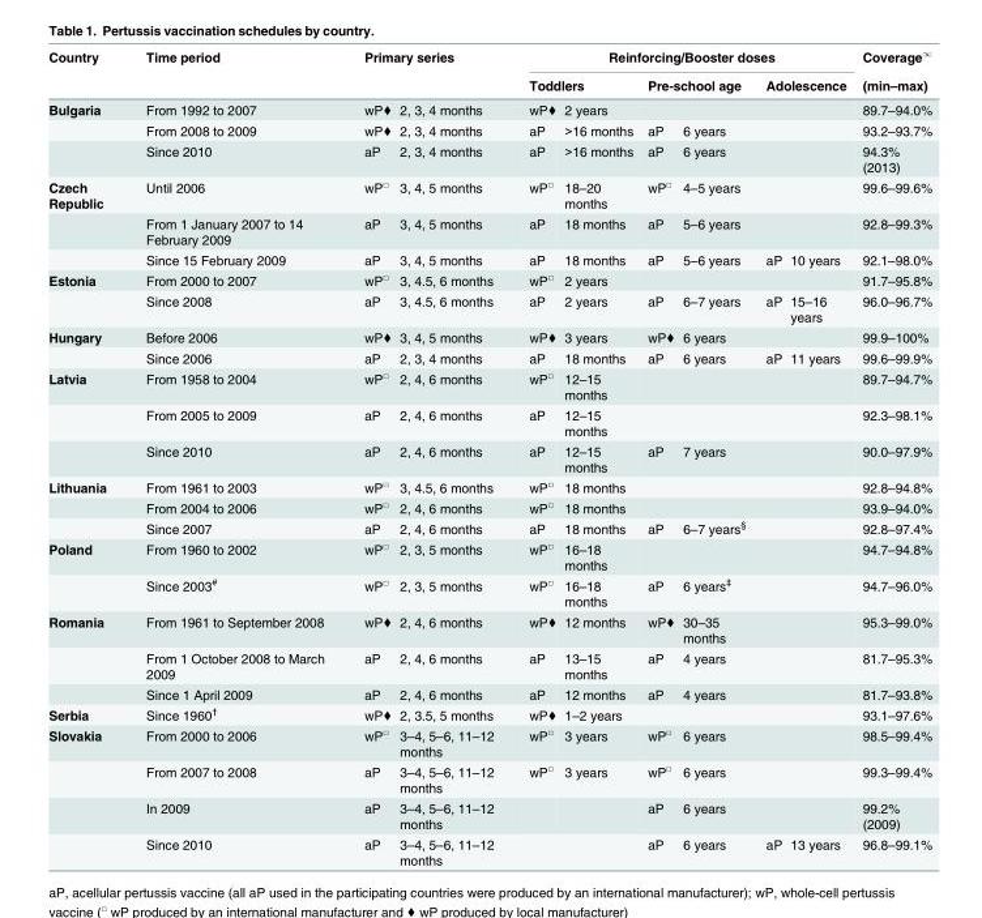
<table><thead><tr><td rowspan="3">Country Bulgaria</td><td rowspan="3">Time period From 1992 to 2007</td><td colspan="2">Primary series</td><td colspan="6">Reinforcing/Booster doses</td><td rowspan="3">Coverage<sup>∞</sup> (min–max) 89.7–94.0%</td></tr><tr><td rowspan="2">wP♦</td><td rowspan="2">2, 3, 4 months</td><td colspan="2">Toddlers</td><td colspan="2">Pre-school age</td><td colspan="2">Adolescence</td></tr><tr><td>wP♦</td><td>2 years</td><td></td><td></td><td></td><td></td></tr></thead><tbody><tr><td></td><td>From 2008 to 2009</td><td>wP♦</td><td>2, 3, 4 months</td><td>aP</td><td>&gt;16 months</td><td>aP</td><td>6 years</td><td></td><td></td><td>93.2–93.7%</td></tr><tr><td></td><td>Since 2010</td><td>aP</td><td>2, 3, 4 months</td><td>aP</td><td>&gt;16 months</td><td>aP</td><td>6 years</td><td></td><td></td><td>94.3% (2013)</td></tr><tr><td rowspan="3">Czech Republic</td><td>Until 2006</td><td>wP<sup>□</sup></td><td>3, 4, 5 months</td><td>wP<sup>□</sup></td><td>18–20 months</td><td>wP<sup>□</sup></td><td>4–5 years</td><td></td><td></td><td>99.6–99.6%</td></tr><tr><td>From 1 January 2007 to 14 February 2009</td><td>aP</td><td>3, 4, 5 months</td><td>aP</td><td>18 months</td><td>aP</td><td>5–6 years</td><td></td><td></td><td>92.8–99.3%</td></tr><tr><td>Since 15 February 2009</td><td>aP</td><td>3, 4, 5 months</td><td>aP</td><td>18 months</td><td>aP</td><td>5–6 years</td><td>aP</td><td>10 years</td><td>92.1–98.0%</td></tr><tr><td rowspan="2">Estonia</td><td>From 2000 to 2007</td><td>wP<sup>□</sup></td><td>3, 4.5, 6 months</td><td>wP<sup>□</sup></td><td>2 years</td><td></td><td></td><td></td><td></td><td>91.7–95.8%</td></tr><tr><td>Since 2008</td><td>aP</td><td>3, 4.5, 6 months</td><td>aP</td><td>2 years</td><td>aP</td><td>6–7 years</td><td>aP</td><td>15–16 years</td><td>96.0–96.7%</td></tr><tr><td rowspan="2">Hungary</td><td>Before 2006</td><td>wP♦</td><td>3, 4, 5 months</td><td>wP♦</td><td>3 years</td><td>wP♦</td><td>6 years</td><td></td><td></td><td>99.9–100%</td></tr><tr><td>Since 2006</td><td>aP</td><td>2, 3, 4 months</td><td>aP</td><td>18 months</td><td>aP</td><td>6 years</td><td>aP</td><td>11 years</td><td>99.6–99.9%</td></tr><tr><td rowspan="3">Latvia</td><td>From 1958 to 2004</td><td>wP<sup>□</sup></td><td>2, 4, 6 months</td><td>wP<sup>□</sup></td><td>12–15 months</td><td></td><td></td><td></td><td></td><td>89.7–94.7%</td></tr><tr><td>From 2005 to 2009</td><td>aP</td><td>2, 4, 6 months</td><td>aP</td><td>12–15 months</td><td></td><td></td><td></td><td></td><td>92.3–98.1%</td></tr><tr><td>Since 2010</td><td>aP</td><td>2, 4, 6 months</td><td>aP</td><td>12–15 months</td><td>aP</td><td>7 years</td><td></td><td></td><td>90.0–97.9%</td></tr><tr><td rowspan="3">Lithuania</td><td>From 1961 to 2003</td><td>wP<sup>□</sup></td><td>3, 4.5, 6 months</td><td>wP<sup>□</sup></td><td>18 months</td><td></td><td></td><td></td><td></td><td>92.8–94.8%</td></tr><tr><td>From 2004 to 2006</td><td>wP<sup>□</sup></td><td>2, 4, 6 months</td><td>wP<sup>□</sup></td><td>18 months</td><td></td><td></td><td></td><td></td><td>93.9–94.0%</td></tr><tr><td>Since 2007</td><td>aP</td><td>2, 4, 6 months</td><td>aP</td><td>18 months</td><td>aP</td><td>6–7 years<sup>§</sup></td><td></td><td></td><td>92.8–97.4%</td></tr><tr><td rowspan="2">Poland</td><td>From 1960 to 2002</td><td>wP<sup>□</sup></td><td>2, 3, 5 months</td><td>wP<sup>□</sup></td><td>16–18 months</td><td></td><td></td><td></td><td></td><td>94.7–94.8%</td></tr><tr><td>Since 2003<sup>#</sup></td><td>wP<sup>□</sup></td><td>2, 3, 5 months</td><td>wP<sup>□</sup></td><td>16–18 months</td><td>aP</td><td>6 years<sup>‡</sup></td><td></td><td></td><td>94.7–96.0%</td></tr><tr><td rowspan="3">Romania</td><td>From 1961 to September 2008</td><td>wP♦</td><td>2, 4, 6 months</td><td>wP♦</td><td>12 months</td><td>wP♦</td><td>30–35 months</td><td></td><td></td><td>95.3–99.0%</td></tr><tr><td>From 1 October 2008 to March 2009</td><td>aP</td><td>2, 4, 6 months</td><td>aP</td><td>13–15 months</td><td>aP</td><td>4 years</td><td></td><td></td><td>81.7–95.3%</td></tr><tr><td>Since 1 April 2009</td><td>aP</td><td>2, 4, 6 months</td><td>aP</td><td>12 months</td><td>aP</td><td>4 years</td><td></td><td></td><td>81.7–93.8%</td></tr><tr><td>Serbia</td><td>Since 1960<sup>†</sup></td><td>wP♦</td><td>2, 3.5, 5 months</td><td>wP♦</td><td>1–2 years</td><td></td><td></td><td></td><td></td><td>93.1–97.6%</td></tr><tr><td rowspan="4">Slovakia</td><td>From 2000 to 2006</td><td>wP<sup>□</sup></td><td>3–4, 5–6, 11–12 months</td><td>wP<sup>□</sup></td><td>3 years</td><td>wP<sup>□</sup></td><td>6 years</td><td></td><td></td><td>98.5–99.4%</td></tr><tr><td>From 2007 to 2008</td><td>aP</td><td>3–4, 5–6, 11–12 months</td><td>wP<sup>□</sup></td><td>3 years</td><td>wP<sup>□</sup></td><td>6 years</td><td></td><td></td><td>99.3–99.4%</td></tr><tr><td>In 2009</td><td>aP</td><td>3–4, 5–6, 11–12 months</td><td></td><td></td><td>aP</td><td>6 years</td><td></td><td></td><td>99.2% (2009)</td></tr><tr><td>Since 2010</td><td>aP</td><td>3–4, 5–6, 11–12 months</td><td></td><td></td><td>aP</td><td>6 years</td><td>aP</td><td>13 years</td><td>96.8–99.1%</td></tr></tbody></table>